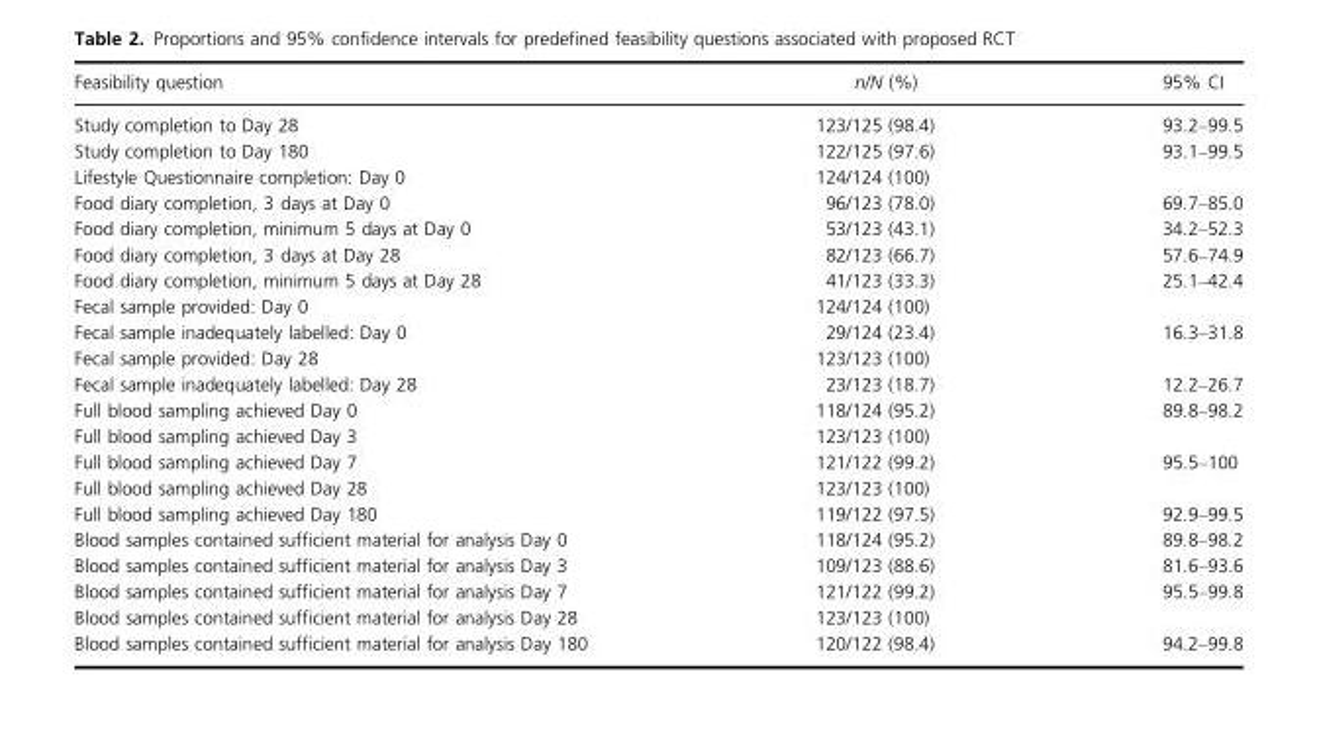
<table><thead><tr><td>Feasibility question</td><td>n/N (%)</td><td>95% CI</td></tr></thead><tbody><tr><td>Study completion to Day 28</td><td>123/125 (98.4)</td><td>93.2–99.5</td></tr><tr><td>Study completion to Day 180</td><td>122/125 (97.6)</td><td>93.1–99.5</td></tr><tr><td>Lifestyle Questionnaire completion: Day 0</td><td>124/124 (100)</td><td></td></tr><tr><td>Food diary completion, 3 days at Day 0</td><td>96/123 (78.0)</td><td>69.7–85.0</td></tr><tr><td>Food diary completion, minimum 5 days at Day 0</td><td>53/123 (43.1)</td><td>34.2–52.3</td></tr><tr><td>Food diary completion, 3 days at Day 28</td><td>82/123 (66.7)</td><td>57.6–74.9</td></tr><tr><td>Food diary completion, minimum 5 days at Day 28</td><td>41/123 (33.3)</td><td>25.1–42.4</td></tr><tr><td>Fecal sample provided: Day 0</td><td>124/124 (100)</td><td></td></tr><tr><td>Fecal sample inadequately labelled: Day 0</td><td>29/124 (23.4)</td><td>16.3–31.8</td></tr><tr><td>Fecal sample provided: Day 28</td><td>123/123 (100)</td><td></td></tr><tr><td>Fecal sample inadequately labelled: Day 28</td><td>23/123 (18.7)</td><td>12.2–26.7</td></tr><tr><td>Full blood sampling achieved Day 0</td><td>118/124 (95.2)</td><td>89.8–98.2</td></tr><tr><td>Full blood sampling achieved Day 3</td><td>123/123 (100)</td><td></td></tr><tr><td>Full blood sampling achieved Day 7</td><td>121/122 (99.2)</td><td>95.5–100</td></tr><tr><td>Full blood sampling achieved Day 28</td><td>123/123 (100)</td><td></td></tr><tr><td>Full blood sampling achieved Day 180</td><td>119/122 (97.5)</td><td>92.9–99.5</td></tr><tr><td>Blood samples contained sufficient material for analysis Day 0</td><td>118/124 (95.2)</td><td>89.8–98.2</td></tr><tr><td>Blood samples contained sufficient material for analysis Day 3</td><td>109/123 (88.6)</td><td>81.6–93.6</td></tr><tr><td>Blood samples contained sufficient material for analysis Day 7</td><td>121/122 (99.2)</td><td>95.5–99.8</td></tr><tr><td>Blood samples contained sufficient material for analysis Day 28</td><td>123/123 (100)</td><td></td></tr><tr><td>Blood samples contained sufficient material for analysis Day 180</td><td>120/122 (98.4)</td><td>94.2–99.8</td></tr></tbody></table>